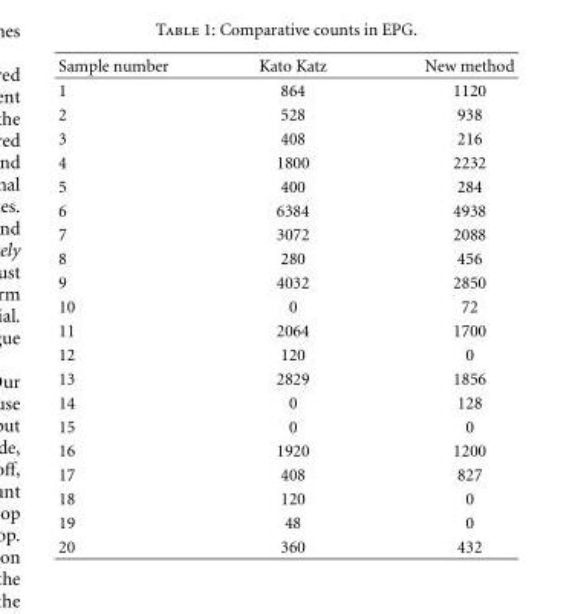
<table><thead><tr><td>Sample number</td><td>Kato Katz</td><td>New method</td></tr></thead><tbody><tr><td>1</td><td>864</td><td>1120</td></tr><tr><td>2</td><td>528</td><td>938</td></tr><tr><td>3</td><td>408</td><td>216</td></tr><tr><td>4</td><td>1800</td><td>2232</td></tr><tr><td>5</td><td>400</td><td>284</td></tr><tr><td>6</td><td>6384</td><td>4938</td></tr><tr><td>7</td><td>3072</td><td>2088</td></tr><tr><td>8</td><td>280</td><td>456</td></tr><tr><td>9</td><td>4032</td><td>2850</td></tr><tr><td>10</td><td>0</td><td>72</td></tr><tr><td>11</td><td>2064</td><td>1700</td></tr><tr><td>12</td><td>120</td><td>0</td></tr><tr><td>13</td><td>2829</td><td>1856</td></tr><tr><td>14</td><td>0</td><td>128</td></tr><tr><td>15</td><td>0</td><td>0</td></tr><tr><td>16</td><td>1920</td><td>1200</td></tr><tr><td>17</td><td>408</td><td>827</td></tr><tr><td>18</td><td>120</td><td>0</td></tr><tr><td>19</td><td>48</td><td>0</td></tr><tr><td>20</td><td>360</td><td>432</td></tr></tbody></table>